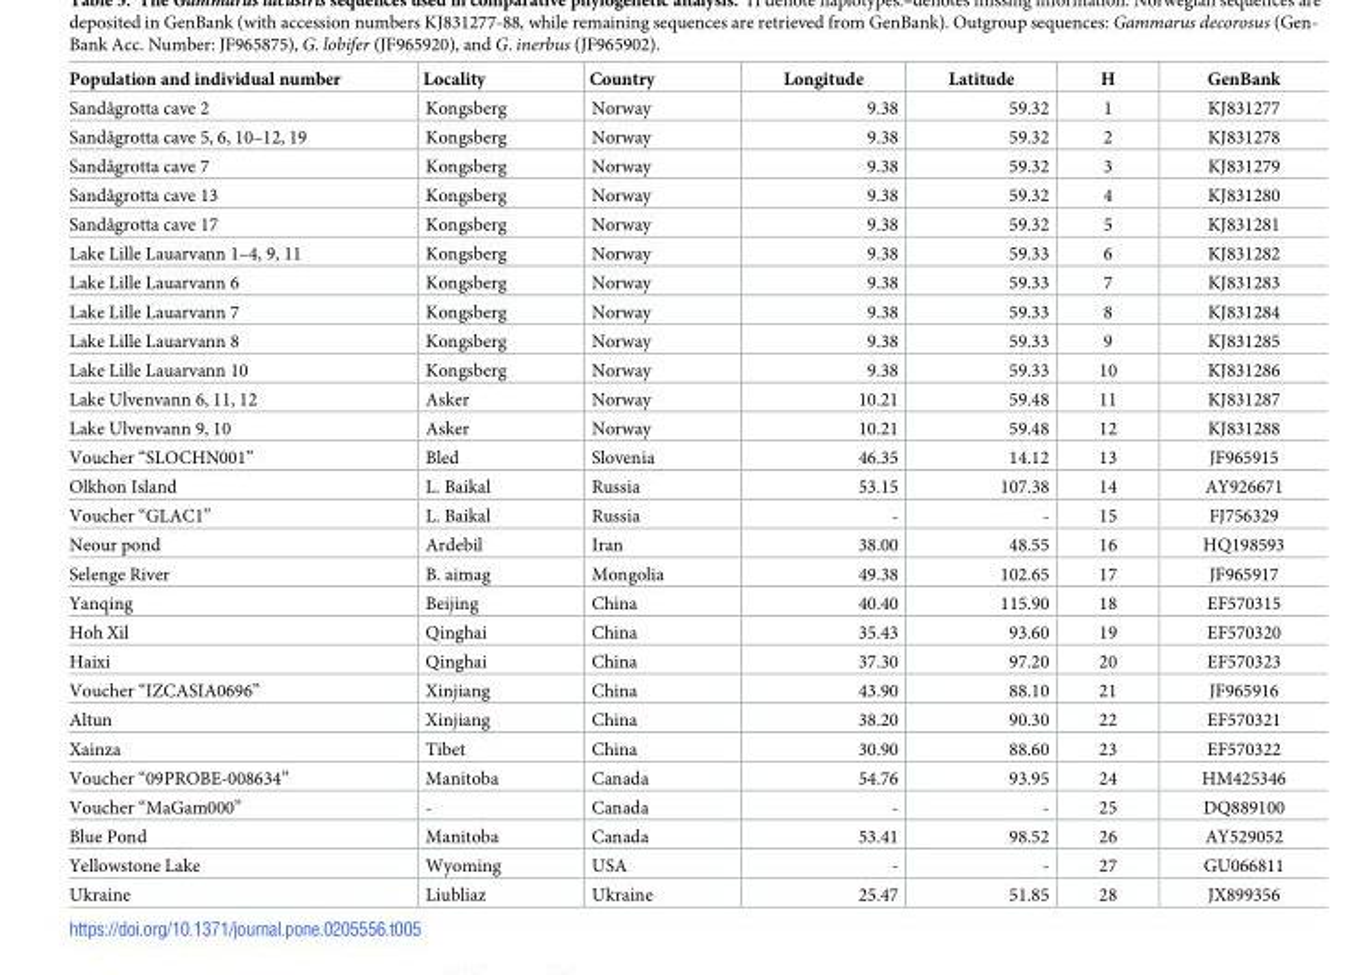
<table><thead><tr><td>Population and individual number</td><td>Locality</td><td>Country</td><td>Longitude</td><td>Latitude</td><td>H</td><td>GenBank</td></tr></thead><tbody><tr><td>Sandågrotta cave 2</td><td>Kongsberg</td><td>Norway</td><td>9.38</td><td>59.32</td><td>1</td><td>KJ831277</td></tr><tr><td>Sandågrotta cave 5, 6, 10–12, 19</td><td>Kongsberg</td><td>Norway</td><td>9.38</td><td>59.32</td><td>2</td><td>KJ831278</td></tr><tr><td>Sandågrotta cave 7</td><td>Kongsberg</td><td>Norway</td><td>9.38</td><td>59.32</td><td>3</td><td>KJ831279</td></tr><tr><td>Sandågrotta cave 13</td><td>Kongsberg</td><td>Norway</td><td>9.38</td><td>59.32</td><td>4</td><td>KJ831280</td></tr><tr><td>Sandågrotta cave 17</td><td>Kongsberg</td><td>Norway</td><td>9.38</td><td>59.32</td><td>5</td><td>KJ831281</td></tr><tr><td>Lake Lille Lauarvann 1–4, 9, 11</td><td>Kongsberg</td><td>Norway</td><td>9.38</td><td>59.33</td><td>6</td><td>KJ831282</td></tr><tr><td>Lake Lille Lauarvann 6</td><td>Kongsberg</td><td>Norway</td><td>9.38</td><td>59.33</td><td>7</td><td>KJ831283</td></tr><tr><td>Lake Lille Lauarvann 7</td><td>Kongsberg</td><td>Norway</td><td>9.38</td><td>59.33</td><td>8</td><td>KJ831284</td></tr><tr><td>Lake Lille Lauarvann 8</td><td>Kongsberg</td><td>Norway</td><td>9.38</td><td>59.33</td><td>9</td><td>KJ831285</td></tr><tr><td>Lake Lille Lauarvann 10</td><td>Kongsberg</td><td>Norway</td><td>9.38</td><td>59.33</td><td>10</td><td>KJ831286</td></tr><tr><td>Lake Ulvenvann 6, 11, 12</td><td>Asker</td><td>Norway</td><td>10.21</td><td>59.48</td><td>11</td><td>KJ831287</td></tr><tr><td>Lake Ulvenvann 9, 10</td><td>Asker</td><td>Norway</td><td>10.21</td><td>59.48</td><td>12</td><td>KJ831288</td></tr><tr><td>Voucher “SLOCHN001”</td><td>Bled</td><td>Slovenia</td><td>46.35</td><td>14.12</td><td>13</td><td>JF965915</td></tr><tr><td>Olkhon Island</td><td>L. Baikal</td><td>Russia</td><td>53.15</td><td>107.38</td><td>14</td><td>AY926671</td></tr><tr><td>Voucher “GLAC1”</td><td>L. Baikal</td><td>Russia</td><td>-</td><td>-</td><td>15</td><td>FJ756329</td></tr><tr><td>Neour pond</td><td>Ardebil</td><td>Iran</td><td>38.00</td><td>48.55</td><td>16</td><td>HQ198593</td></tr><tr><td>Selenge River</td><td>B. aimag</td><td>Mongolia</td><td>49.38</td><td>102.65</td><td>17</td><td>JF965917</td></tr><tr><td>Yanqing</td><td>Beijing</td><td>China</td><td>40.40</td><td>115.90</td><td>18</td><td>EF570315</td></tr><tr><td>Hoh Xil</td><td>Qinghai</td><td>China</td><td>35.43</td><td>93.60</td><td>19</td><td>EF570320</td></tr><tr><td>Haixi</td><td>Qinghai</td><td>China</td><td>37.30</td><td>97.20</td><td>20</td><td>EF570323</td></tr><tr><td>Voucher “IZCASIA0696”</td><td>Xinjiang</td><td>China</td><td>43.90</td><td>88.10</td><td>21</td><td>JF965916</td></tr><tr><td>Altun</td><td>Xinjiang</td><td>China</td><td>38.20</td><td>90.30</td><td>22</td><td>EF570321</td></tr><tr><td>Xainza</td><td>Tibet</td><td>China</td><td>30.90</td><td>88.60</td><td>23</td><td>EF570322</td></tr><tr><td>Voucher “09PROBE-008634”</td><td>Manitoba</td><td>Canada</td><td>54.76</td><td>93.95</td><td>24</td><td>HM425346</td></tr><tr><td>Voucher “MaGam000”</td><td>-</td><td>Canada</td><td>-</td><td>-</td><td>25</td><td>DQ889100</td></tr><tr><td>Blue Pond</td><td>Manitoba</td><td>Canada</td><td>53.41</td><td>98.52</td><td>26</td><td>AY529052</td></tr><tr><td>Yellowstone Lake</td><td>Wyoming</td><td>USA</td><td>-</td><td>-</td><td>27</td><td>GU066811</td></tr><tr><td>Ukraine</td><td>Liubliaz</td><td>Ukraine</td><td>25.47</td><td>51.85</td><td>28</td><td>JX899356</td></tr></tbody></table>